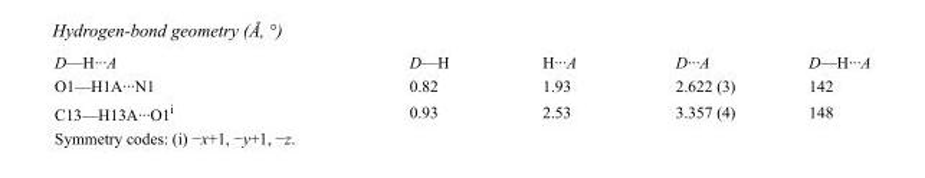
<table><tbody><tr><td>D—H···A</td><td>D—H</td><td>H···A</td><td>D···A</td><td>D—H···A</td></tr><tr><td>O1—H1A···N1</td><td>0.82</td><td>1.93</td><td>2.622 (3)</td><td>142</td></tr><tr><td>C13—H13A···O1<sup>i</sup></td><td>0.93</td><td>2.53</td><td>3.357 (4)</td><td>148</td></tr></tbody></table>